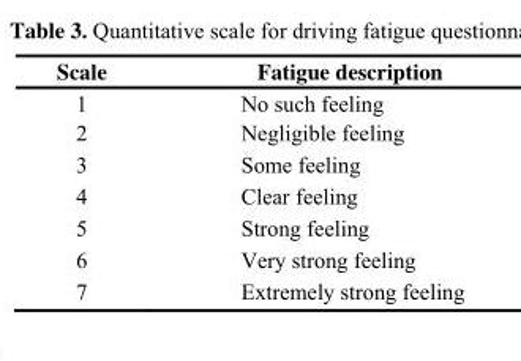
<table><thead><tr><td>Scale</td><td>Fatigue description</td></tr></thead><tbody><tr><td>1</td><td>No such feeling</td></tr><tr><td>2</td><td>Negligible feeling</td></tr><tr><td>3</td><td>Some feeling</td></tr><tr><td>4</td><td>Clear feeling</td></tr><tr><td>5</td><td>Strong feeling</td></tr><tr><td>6</td><td>Very strong feeling</td></tr><tr><td>7</td><td>Extremely strong feeling</td></tr></tbody></table>